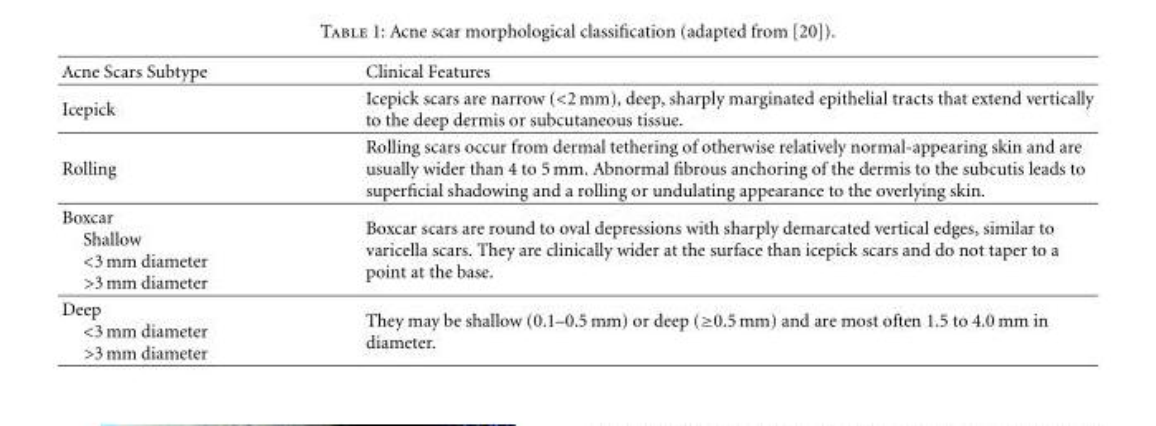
<table><thead><tr><td>Acne Scars Subtype</td><td>Clinical Features</td></tr></thead><tbody><tr><td>Icepick</td><td>Icepick scars are narrow (&lt;2 mm), deep, sharply marginated epithelial tracts that extend vertically to the deep dermis or subcutaneous tissue.</td></tr><tr><td>Rolling</td><td>Rolling scars occur from dermal tethering of otherwise relatively normal-appearing skin and are usually wider than 4 to 5 mm. Abnormal fibrous anchoring of the dermis to the subcutis leads to superficial shadowing and a rolling or undulating appearance to the overlying skin.</td></tr><tr><td>Boxcar Shallow &lt;3 mm diameter &gt;3 mm diameter</td><td>Boxcar scars are round to oval depressions with sharply demarcated vertical edges, similar to varicella scars. They are clinically wider at the surface than icepick scars and do not taper to a point at the base.</td></tr><tr><td>Deep &lt;3 mm diameter &gt;3 mm diameter</td><td>They may be shallow (0.1–0.5 mm) or deep (≥0.5 mm) and are most often 1.5 to 4.0 mm in diameter.</td></tr></tbody></table>